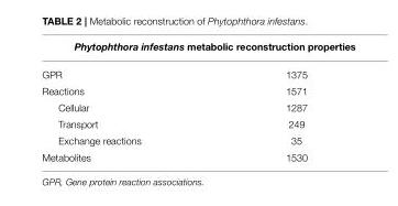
<table><thead><tr><td colspan="2">Phytophthora infestans metabolic reconstruction properties</td></tr><tr><td>GPR</td><td>1375</td></tr></thead><tbody><tr><td>Reactions</td><td>1571</td></tr><tr><td>Cellular</td><td>1287</td></tr><tr><td>Transport</td><td>249</td></tr><tr><td>Exchange reactions</td><td>35</td></tr><tr><td>Metabolites</td><td>1530</td></tr></tbody></table>